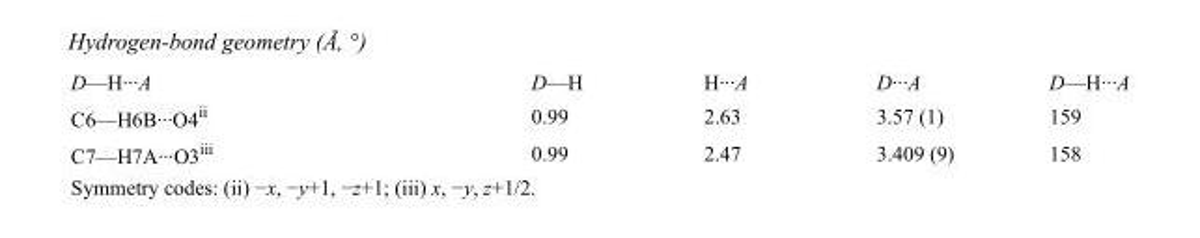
<table><tbody><tr><td>D—H···A</td><td>D—H</td><td>H···A</td><td>D···A</td><td>D—H···A</td></tr><tr><td>C6—H6B···O4<sup>ii</sup></td><td>0.99</td><td>2.63</td><td>3.57 (1)</td><td>159</td></tr><tr><td>C7—H7A···O3<sup>iii</sup></td><td>0.99</td><td>2.47</td><td>3.409 (9)</td><td>158</td></tr></tbody></table>